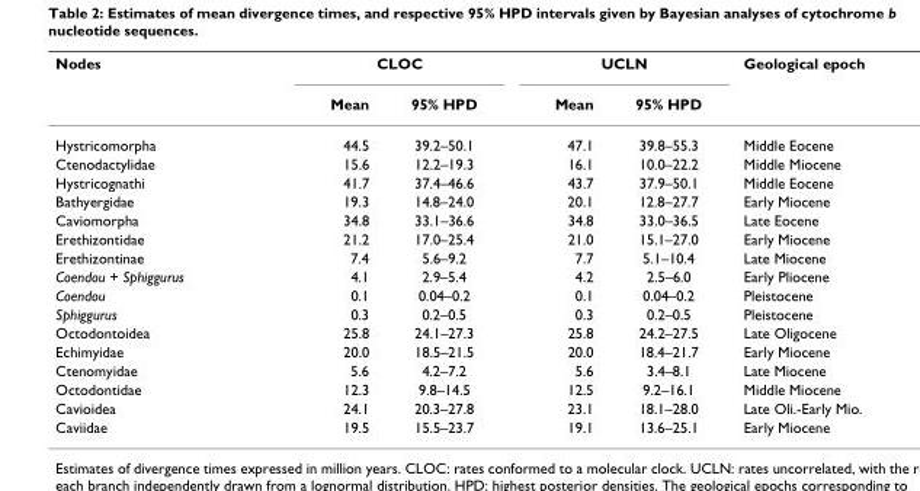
<table><thead><tr><td rowspan="2">Nodes</td><td colspan="2">CLOC</td><td colspan="2">UCLN</td><td rowspan="2">Geological epoch</td></tr><tr><td>Mean</td><td>95% HPD</td><td>Mean</td><td>95% HPD</td></tr></thead><tbody><tr><td>Hystricomorpha</td><td>44.5</td><td>39.2–50.1</td><td>47.1</td><td>39.8–55.3</td><td>Middle Eocene</td></tr><tr><td>Ctenodactylidae</td><td>15.6</td><td>12.2–19.3</td><td>16.1</td><td>10.0–22.2</td><td>Middle Miocene</td></tr><tr><td>Hystricognathi</td><td>41.7</td><td>37.4–46.6</td><td>43.7</td><td>37.9–50.1</td><td>Middle Eocene</td></tr><tr><td>Bathyergidae</td><td>19.3</td><td>14.8–24.0</td><td>20.1</td><td>12.8–27.7</td><td>Early Miocene</td></tr><tr><td>Caviomorpha</td><td>34.8</td><td>33.1–36.6</td><td>34.8</td><td>33.0–36.5</td><td>Late Eocene</td></tr><tr><td>Erethizontidae</td><td>21.2</td><td>17.0–25.4</td><td>21.0</td><td>15.1–27.0</td><td>Early Miocene</td></tr><tr><td>Erethizontinae</td><td>7.4</td><td>5.6–9.2</td><td>7.7</td><td>5.1–10.4</td><td>Late Miocene</td></tr><tr><td>Coendou + Sphiggurus</td><td>4.1</td><td>2.9–5.4</td><td>4.2</td><td>2.5–6.0</td><td>Early Pliocene</td></tr><tr><td>Coendou</td><td>0.1</td><td>0.04–0.2</td><td>0.1</td><td>0.04–0.2</td><td>Pleistocene</td></tr><tr><td>Sphiggurus</td><td>0.3</td><td>0.2–0.5</td><td>0.3</td><td>0.2–0.5</td><td>Pleistocene</td></tr><tr><td>Octodontoidea</td><td>25.8</td><td>24.1–27.3</td><td>25.8</td><td>24.2–27.5</td><td>Late Oligocene</td></tr><tr><td>Echimyidae</td><td>20.0</td><td>18.5–21.5</td><td>20.0</td><td>18.4–21.7</td><td>Early Miocene</td></tr><tr><td>Ctenomyidae</td><td>5.6</td><td>4.2–7.2</td><td>5.6</td><td>3.4–8.1</td><td>Late Miocene</td></tr><tr><td>Octodontidae</td><td>12.3</td><td>9.8–14.5</td><td>12.5</td><td>9.2–16.1</td><td>Middle Miocene</td></tr><tr><td>Cavioidea</td><td>24.1</td><td>20.3–27.8</td><td>23.1</td><td>18.1–28.0</td><td>Late Oli.-Early Mio.</td></tr><tr><td>Caviidae</td><td>19.5</td><td>15.5–23.7</td><td>19.1</td><td>13.6–25.1</td><td>Early Miocene</td></tr></tbody></table>